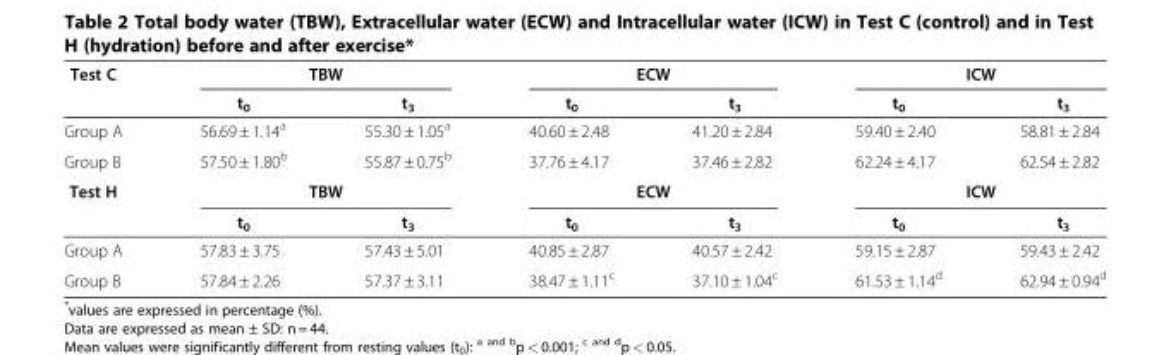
<table><thead><tr><td rowspan="2">Test C</td><td colspan="2">TBW</td><td colspan="2">ECW</td><td colspan="2">ICW</td></tr><tr><td>t<sub>0</sub></td><td>t<sub>3</sub></td><td>t<sub>0</sub></td><td>t<sub>3</sub></td><td>t<sub>0</sub></td><td>t<sub>3</sub></td></tr></thead><tbody><tr><td>Group A</td><td>56.69 ± 1.14<sup>a</sup></td><td>55.30 ± 1.05<sup>a</sup></td><td>40.60 ± 2.48</td><td>41.20 ± 2.84</td><td>59.40 ± 2.40</td><td>58.81 ± 2.84</td></tr><tr><td>Group B</td><td>57.50 ± 1.80<sup>b</sup></td><td>55.87 ± 0.75<sup>b</sup></td><td>37.76 ± 4.17</td><td>37.46 ± 2.82</td><td>62.24 ± 4.17</td><td>62.54 ± 2.82</td></tr><tr><td rowspan="2">Test H</td><td colspan="2">TBW</td><td colspan="2">ECW</td><td colspan="2">ICW</td></tr><tr><td>t<sub>0</sub></td><td>t<sub>3</sub></td><td>t<sub>0</sub></td><td>t<sub>3</sub></td><td>t<sub>0</sub></td><td>t<sub>3</sub></td></tr><tr><td>Group A</td><td>57.83 ± 3.75</td><td>57.43 ± 5.01</td><td>40.85 ± 2.87</td><td>40.57 ± 2.42</td><td>59.15 ± 2.87</td><td>59.43 ± 2.42</td></tr><tr><td>Group B</td><td>57.84 ± 2.26</td><td>57.37 ± 3.11</td><td>38.47 ± 1.11<sup>c</sup></td><td>37.10 ± 1.04<sup>c</sup></td><td>61.53 ± 1.14<sup>d</sup></td><td>62.94 ± 0.94<sup>d</sup></td></tr></tbody></table>